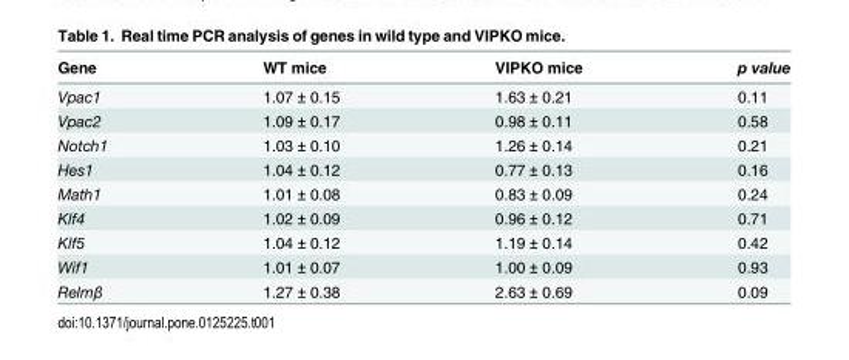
<table><thead><tr><td>Gene</td><td>WT mice</td><td>VIPKO mice</td><td>p value</td></tr></thead><tbody><tr><td>Vpac1</td><td>1.07 ± 0.15</td><td>1.63 ± 0.21</td><td>0.11</td></tr><tr><td>Vpac2</td><td>1.09 ± 0.17</td><td>0.98 ± 0.11</td><td>0.58</td></tr><tr><td>Notch1</td><td>1.03 ± 0.10</td><td>1.26 ± 0.14</td><td>0.21</td></tr><tr><td>Hes1</td><td>1.04 ± 0.12</td><td>0.77 ± 0.13</td><td>0.16</td></tr><tr><td>Math1</td><td>1.01 ± 0.08</td><td>0.83 ± 0.09</td><td>0.24</td></tr><tr><td>Klf4</td><td>1.02 ± 0.09</td><td>0.96 ± 0.12</td><td>0.71</td></tr><tr><td>Klf5</td><td>1.04 ± 0.12</td><td>1.19 ± 0.14</td><td>0.42</td></tr><tr><td>Wif1</td><td>1.01 ± 0.07</td><td>1.00 ± 0.09</td><td>0.93</td></tr><tr><td>Relmβ</td><td>1.27 ± 0.38</td><td>2.63 ± 0.69</td><td>0.09</td></tr></tbody></table>